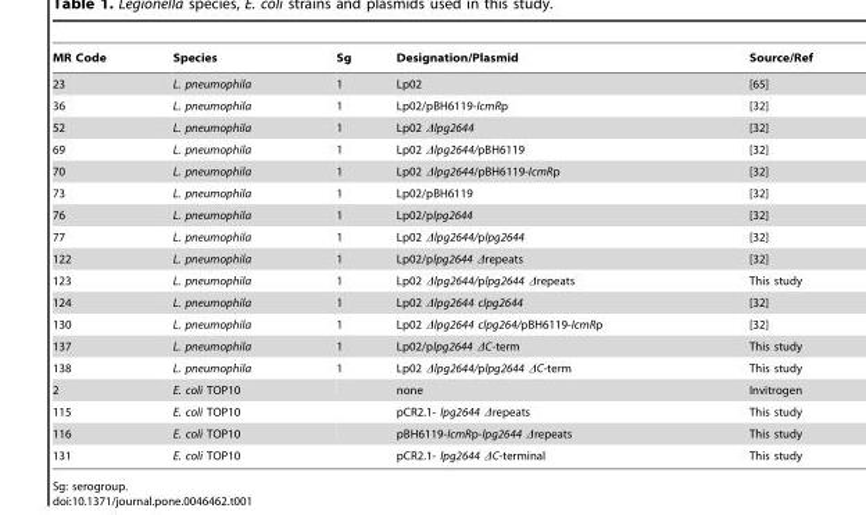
<table><thead><tr><td>MR Code</td><td>Species</td><td>Sg</td><td>Designation/Plasmid</td><td>Source/Ref</td></tr></thead><tbody><tr><td>23</td><td>L. pneumophila</td><td>1</td><td>Lp02</td><td>[65]</td></tr><tr><td>36</td><td>L. pneumophila</td><td>1</td><td>Lp02/pBH6119-IcmRp</td><td>[32]</td></tr><tr><td>52</td><td>L. pneumophila</td><td>1</td><td>Lp02 Δlpg2644</td><td>[32]</td></tr><tr><td>69</td><td>L. pneumophila</td><td>1</td><td>Lp02 Δlpg2644/pBH6119</td><td>[32]</td></tr><tr><td>70</td><td>L. pneumophila</td><td>1</td><td>Lp02 Δlpg2644/pBH6119-IcmRp</td><td>[32]</td></tr><tr><td>73</td><td>L. pneumophila</td><td>1</td><td>Lp02/pBH6119</td><td>[32]</td></tr><tr><td>76</td><td>L. pneumophila</td><td>1</td><td>Lp02/plpg2644</td><td>[32]</td></tr><tr><td>77</td><td>L. pneumophila</td><td>1</td><td>Lp02 Δlpg2644/plpg2644</td><td>[32]</td></tr><tr><td>122</td><td>L. pneumophila</td><td>1</td><td>Lp02/plpg2644 Δrepeats</td><td>[32]</td></tr><tr><td>123</td><td>L. pneumophila</td><td>1</td><td>Lp02 Δlpg2644/plpg2644 Δrepeats</td><td>This study</td></tr><tr><td>124</td><td>L. pneumophila</td><td>1</td><td>Lp02 Δlpg2644 clpg2644</td><td>[32]</td></tr><tr><td>130</td><td>L. pneumophila</td><td>1</td><td>Lp02 Δlpg2644 clpg264/pBH6119-IcmRp</td><td>[32]</td></tr><tr><td>137</td><td>L. pneumophila</td><td>1</td><td>Lp02/plpg2644 ΔC-term</td><td>This study</td></tr><tr><td>138</td><td>L. pneumophila</td><td>1</td><td>Lp02 Δlpg2644/plpg2644 ΔC-term</td><td>This study</td></tr><tr><td>2</td><td>E. coli TOP10</td><td></td><td>none</td><td>Invitrogen</td></tr><tr><td>115</td><td>E. coli TOP10</td><td></td><td>pCR2.1- lpg2644 Δrepeats</td><td>This study</td></tr><tr><td>116</td><td>E. coli TOP10</td><td></td><td>pBH6119-IcmRp-lpg2644 Δrepeats</td><td>This study</td></tr><tr><td>131</td><td>E. coli TOP10</td><td></td><td>pCR2.1- lpg2644 ΔC-terminal</td><td>This study</td></tr></tbody></table>